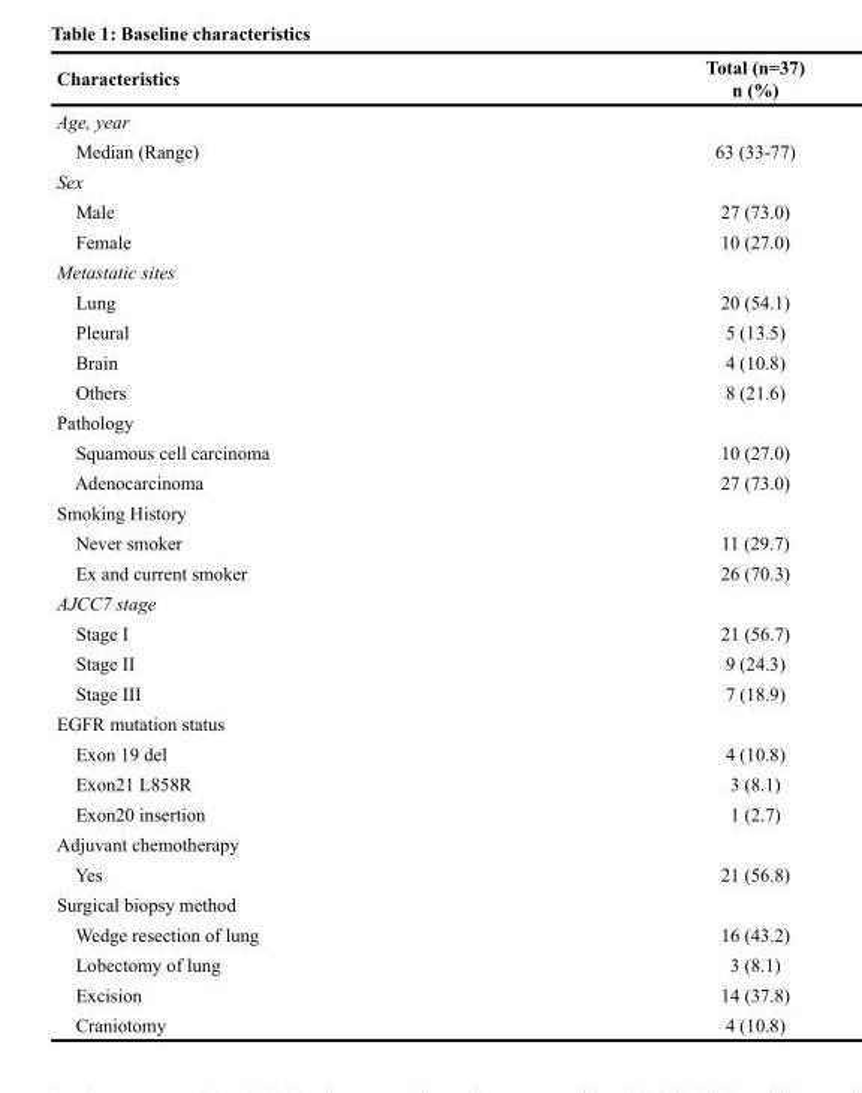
<table><thead><tr><td>Characteristics</td><td>Total (n=37) n (%)</td></tr></thead><tbody><tr><td colspan="2">Age, year</td></tr><tr><td>Median (Range)</td><td>63 (33-77)</td></tr><tr><td colspan="2">Sex</td></tr><tr><td>Male</td><td>27 (73.0)</td></tr><tr><td>Female</td><td>10 (27.0)</td></tr><tr><td colspan="2">Metastatic sites</td></tr><tr><td>Lung</td><td>20 (54.1)</td></tr><tr><td>Pleural</td><td>5 (13.5)</td></tr><tr><td>Brain</td><td>4 (10.8)</td></tr><tr><td>Others</td><td>8 (21.6)</td></tr><tr><td colspan="2">Pathology</td></tr><tr><td>Squamous cell carcinoma</td><td>10 (27.0)</td></tr><tr><td>Adenocarcinoma</td><td>27 (73.0)</td></tr><tr><td colspan="2">Smoking History</td></tr><tr><td>Never smoker</td><td>11 (29.7)</td></tr><tr><td>Ex and current smoker</td><td>26 (70.3)</td></tr><tr><td colspan="2">AJCC7 stage</td></tr><tr><td>Stage I</td><td>21 (56.7)</td></tr><tr><td>Stage II</td><td>9 (24.3)</td></tr><tr><td>Stage III</td><td>7 (18.9)</td></tr><tr><td colspan="2">EGFR mutation status</td></tr><tr><td>Exon 19 del</td><td>4 (10.8)</td></tr><tr><td>Exon21 L858R</td><td>3 (8.1)</td></tr><tr><td>Exon20 insertion</td><td>1 (2.7)</td></tr><tr><td colspan="2">Adjuvant chemotherapy</td></tr><tr><td>Yes</td><td>21 (56.8)</td></tr><tr><td colspan="2">Surgical biopsy method</td></tr><tr><td>Wedge resection of lung</td><td>16 (43.2)</td></tr><tr><td>Lobectomy of lung</td><td>3 (8.1)</td></tr><tr><td>Excision</td><td>14 (37.8)</td></tr><tr><td>Craniotomy</td><td>4 (10.8)</td></tr></tbody></table>